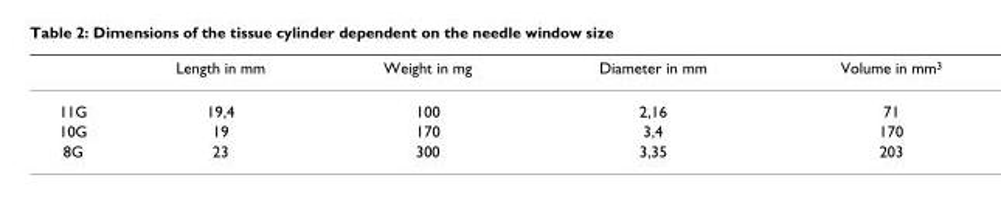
<table><thead><tr><td></td><td>Length in mm</td><td>Weight in mg</td><td>Diameter in mm</td><td>Volume in mm<sup>3</sup></td></tr></thead><tbody><tr><td>11G</td><td>19,4</td><td>100</td><td>2,16</td><td>71</td></tr><tr><td>10G</td><td>19</td><td>170</td><td>3,4</td><td>170</td></tr><tr><td>8G</td><td>23</td><td>300</td><td>3,35</td><td>203</td></tr></tbody></table>